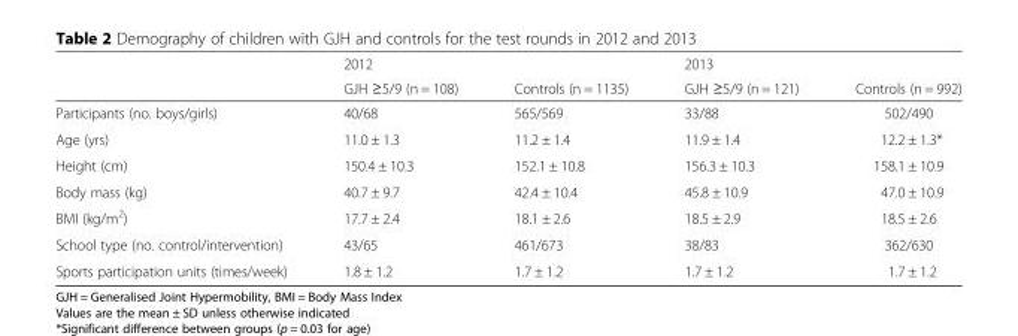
<table><thead><tr><td rowspan="2"></td><td colspan="2">2012</td><td colspan="2">2013</td></tr><tr><td>GJH ≥5/9 (n = 108)</td><td>Controls (n = 1135)</td><td>GJH ≥5/9 (n = 121)</td><td>Controls (n = 992)</td></tr></thead><tbody><tr><td>Participants (no. boys/girls)</td><td>40/68</td><td>565/569</td><td>33/88</td><td>502/490</td></tr><tr><td>Age (yrs)</td><td>11.0 ± 1.3</td><td>11.2 ± 1.4</td><td>11.9 ± 1.4</td><td>12.2 ± 1.3*</td></tr><tr><td>Height (cm)</td><td>150.4 ± 10.3</td><td>152.1 ± 10.8</td><td>156.3 ± 10.3</td><td>158.1 ± 10.9</td></tr><tr><td>Body mass (kg)</td><td>40.7 ± 9.7</td><td>42.4 ± 10.4</td><td>45.8 ± 10.9</td><td>47.0 ± 10.9</td></tr><tr><td>BMI (kg/m<sup>2</sup>)</td><td>17.7 ± 2.4</td><td>18.1 ± 2.6</td><td>18.5 ± 2.9</td><td>18.5 ± 2.6</td></tr><tr><td>School type (no. control/intervention)</td><td>43/65</td><td>461/673</td><td>38/83</td><td>362/630</td></tr><tr><td>Sports participation units (times/week)</td><td>1.8 ± 1.2</td><td>1.7 ± 1.2</td><td>1.7 ± 1.2</td><td>1.7 ± 1.2</td></tr></tbody></table>